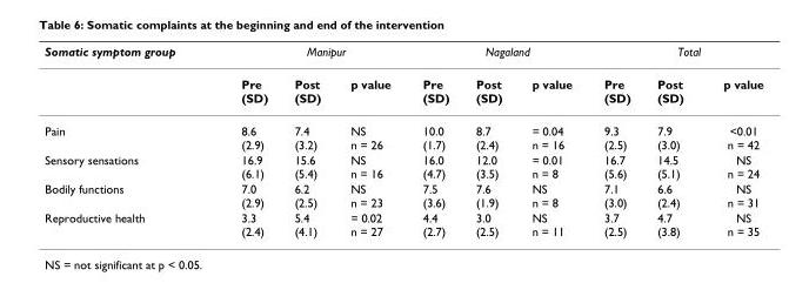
<table><thead><tr><td rowspan="2">Somatic symptom group</td><td colspan="3">Manipur</td><td colspan="3">Nagaland</td><td colspan="3">Total</td></tr><tr><td>Pre (SD)</td><td>Post (SD)</td><td>p value</td><td>Pre (SD)</td><td>Post (SD)</td><td>p value</td><td>Pre (SD)</td><td>Post (SD)</td><td>p value</td></tr></thead><tbody><tr><td>Pain</td><td>8.6 (2.9)</td><td>7.4 (3.2)</td><td>NS n = 26</td><td>10.0 (1.7)</td><td>8.7 (2.4)</td><td>= 0.04 n = 16</td><td>9.3 (2.5)</td><td>7.9 (3.0)</td><td>&lt;0.01 n = 42</td></tr><tr><td>Sensory sensations</td><td>16.9 (6.1)</td><td>15.6 (5.4)</td><td>NS n = 16</td><td>16.0 (4.7)</td><td>12.0 (3.5)</td><td>= 0.01 n = 8</td><td>16.7 (5.6)</td><td>14.5 (5.1)</td><td>NS n = 24</td></tr><tr><td>Bodily functions</td><td>7.0 (2.9)</td><td>6.2 (2.5)</td><td>NS n = 23</td><td>7.5 (3.6)</td><td>7.6 (1.9)</td><td>NS n = 8</td><td>7.1 (3.0)</td><td>6.6 (2.4)</td><td>NS n = 31</td></tr><tr><td>Reproductive health</td><td>3.3 (2.4)</td><td>5.4 (4.1)</td><td>= 0.02 n = 27</td><td>4.4 (2.7)</td><td>3.0 (2.5)</td><td>NS n = 11</td><td>3.7 (2.5)</td><td>4.7 (3.8)</td><td>NS n = 35</td></tr></tbody></table>